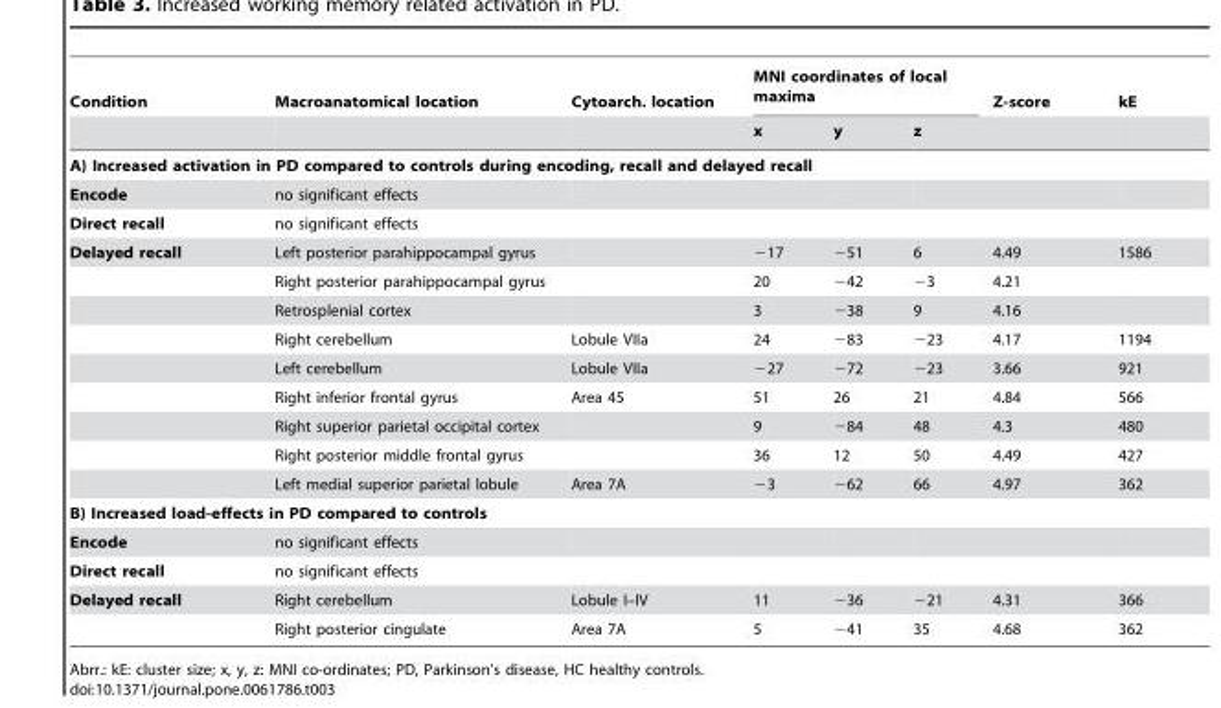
<table><thead><tr><td rowspan="2">Condition</td><td rowspan="2">Macroanatomical location</td><td rowspan="2">Cytoarch. location</td><td colspan="3">MNI coordinates of local maxima</td><td rowspan="2">Z-score</td><td rowspan="2">kE</td></tr><tr><td>x</td><td>y</td><td>z</td></tr></thead><tbody><tr><td colspan="8">A) Increased activation in PD compared to controls during encoding, recall and delayed recall</td></tr><tr><td>Encode</td><td>no significant effects</td><td></td><td></td><td></td><td></td><td></td><td></td></tr><tr><td>Direct recall</td><td>no significant effects</td><td></td><td></td><td></td><td></td><td></td><td></td></tr><tr><td rowspan="9">Delayed recall</td><td>Left posterior parahippocampal gyrus</td><td></td><td>−17</td><td>−51</td><td>6</td><td>4.49</td><td>1586</td></tr><tr><td>Right posterior parahippocampal gyrus</td><td></td><td>20</td><td>−42</td><td>−3</td><td>4.21</td><td></td></tr><tr><td>Retrosplenial cortex</td><td></td><td>3</td><td>−38</td><td>9</td><td>4.16</td><td></td></tr><tr><td>Right cerebellum</td><td>Lobule VIIa</td><td>24</td><td>−83</td><td>−23</td><td>4.17</td><td>1194</td></tr><tr><td>Left cerebellum</td><td>Lobule VIIa</td><td>−27</td><td>−72</td><td>−23</td><td>3.66</td><td>921</td></tr><tr><td>Right inferior frontal gyrus</td><td>Area 45</td><td>51</td><td>26</td><td>21</td><td>4.84</td><td>566</td></tr><tr><td>Right superior parietal occipital cortex</td><td></td><td>9</td><td>−84</td><td>48</td><td>4.3</td><td>480</td></tr><tr><td>Right posterior middle frontal gyrus</td><td></td><td>36</td><td>12</td><td>50</td><td>4.49</td><td>427</td></tr><tr><td>Left medial superior parietal lobule</td><td>Area 7A</td><td>−3</td><td>−62</td><td>66</td><td>4.97</td><td>362</td></tr><tr><td colspan="8">B) Increased load-effects in PD compared to controls</td></tr><tr><td>Encode</td><td>no significant effects</td><td></td><td></td><td></td><td></td><td></td><td></td></tr><tr><td>Direct recall</td><td>no significant effects</td><td></td><td></td><td></td><td></td><td></td><td></td></tr><tr><td rowspan="2">Delayed recall</td><td>Right cerebellum</td><td>Lobule I–IV</td><td>11</td><td>−36</td><td>−21</td><td>4.31</td><td>366</td></tr><tr><td>Right posterior cingulate</td><td>Area 7A</td><td>5</td><td>−41</td><td>35</td><td>4.68</td><td>362</td></tr></tbody></table>